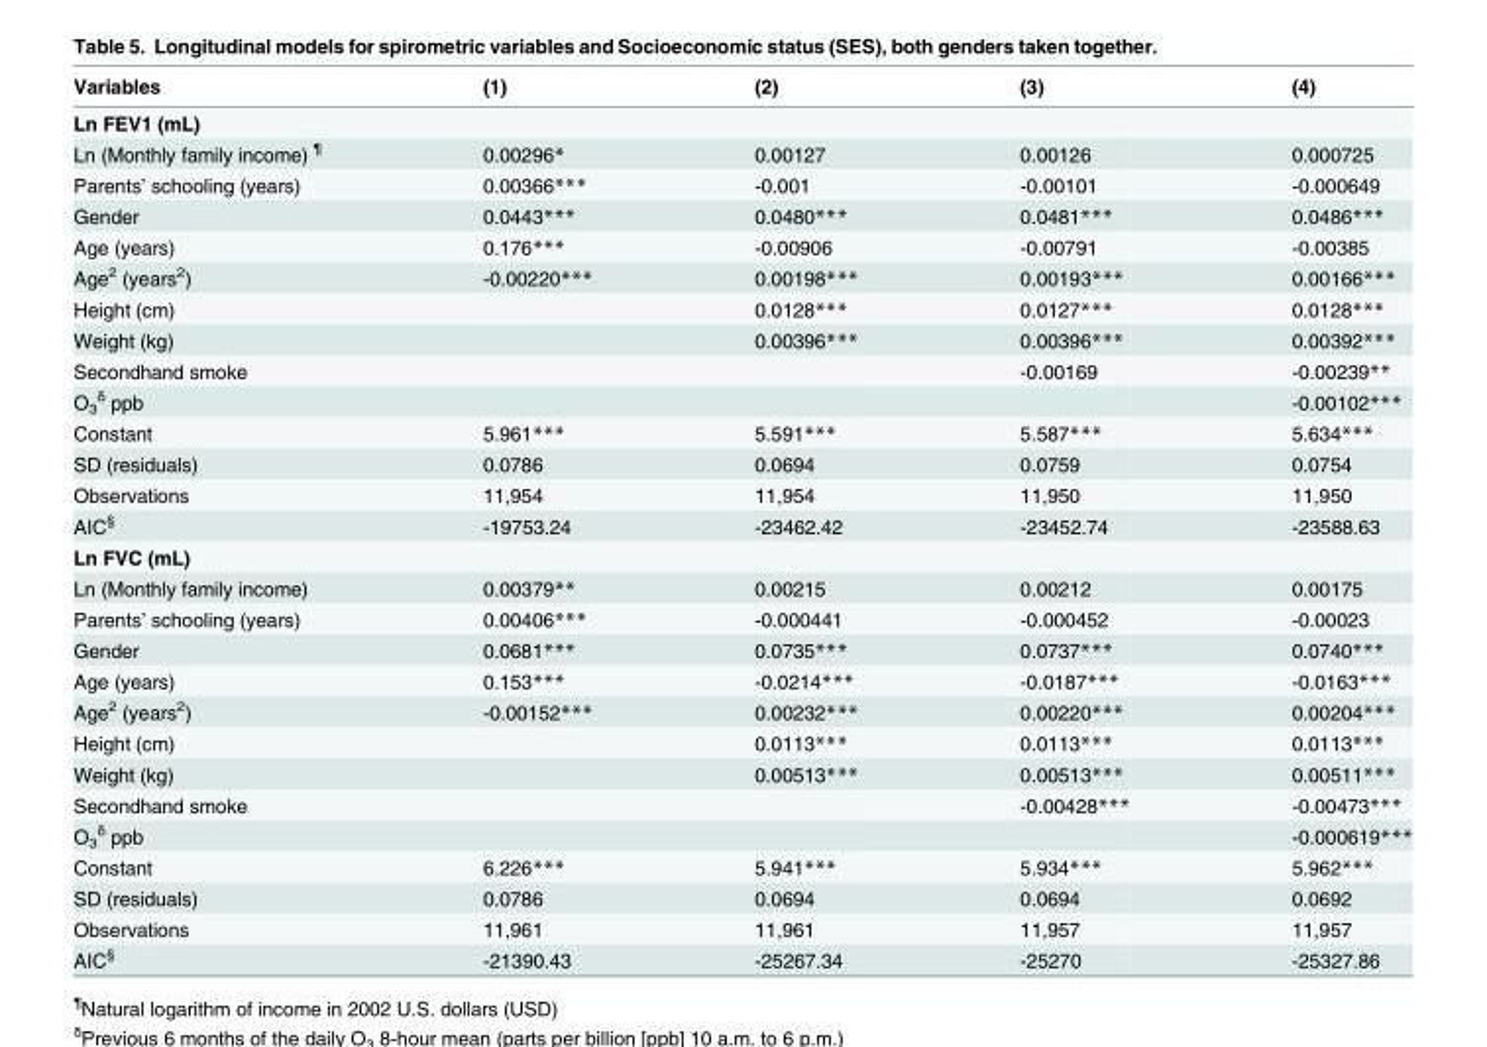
<table><thead><tr><td>Variables</td><td>(1)</td><td>(2)</td><td>(3)</td><td>(4)</td></tr></thead><tbody><tr><td colspan="5">Ln FEV1 (mL)</td></tr><tr><td>Ln (Monthly family income) <sup>¶</sup></td><td>0.00296*</td><td>0.00127</td><td>0.00126</td><td>0.000725</td></tr><tr><td>Parents’ schooling (years)</td><td>0.00366***</td><td>-0.001</td><td>-0.00101</td><td>-0.000649</td></tr><tr><td>Gender</td><td>0.0443***</td><td>0.0480***</td><td>0.0481***</td><td>0.0486***</td></tr><tr><td>Age (years)</td><td>0.176***</td><td>-0.00906</td><td>-0.00791</td><td>-0.00385</td></tr><tr><td>Age<sup>2</sup> (years<sup>2</sup>)</td><td>-0.00220***</td><td>0.00198***</td><td>0.00193***</td><td>0.00166***</td></tr><tr><td>Height (cm)</td><td></td><td>0.0128***</td><td>0.0127***</td><td>0.0128***</td></tr><tr><td>Weight (kg)</td><td></td><td>0.00396***</td><td>0.00396***</td><td>0.00392***</td></tr><tr><td>Secondhand smoke</td><td></td><td></td><td>-0.00169</td><td>-0.00239**</td></tr><tr><td>O<sub>3</sub> <sup>δ</sup> ppb</td><td></td><td></td><td></td><td>-0.00102***</td></tr><tr><td>Constant</td><td>5.961***</td><td>5.591***</td><td>5.587***</td><td>5.634***</td></tr><tr><td>SD (residuals)</td><td>0.0786</td><td>0.0694</td><td>0.0759</td><td>0.0754</td></tr><tr><td>Observations</td><td>11,954</td><td>11,954</td><td>11,950</td><td>11,950</td></tr><tr><td>AIC<sup>§</sup></td><td>-19753.24</td><td>-23462.42</td><td>-23452.74</td><td>-23588.63</td></tr><tr><td colspan="5">Ln FVC (mL)</td></tr><tr><td>Ln (Monthly family income)</td><td>0.00379**</td><td>0.00215</td><td>0.00212</td><td>0.00175</td></tr><tr><td>Parents’ schooling (years)</td><td>0.00406***</td><td>-0.000441</td><td>-0.000452</td><td>-0.00023</td></tr><tr><td>Gender</td><td>0.0681***</td><td>0.0735***</td><td>0.0737***</td><td>0.0740***</td></tr><tr><td>Age (years)</td><td>0.153***</td><td>-0.0214***</td><td>-0.0187***</td><td>-0.0163***</td></tr><tr><td>Age<sup>2</sup> (years<sup>2</sup>)</td><td>-0.00152***</td><td>0.00232***</td><td>0.00220***</td><td>0.00204***</td></tr><tr><td>Height (cm)</td><td></td><td>0.0113***</td><td>0.0113***</td><td>0.0113***</td></tr><tr><td>Weight (kg)</td><td></td><td>0.00513***</td><td>0.00513***</td><td>0.00511***</td></tr><tr><td>Secondhand smoke</td><td></td><td></td><td>-0.00428***</td><td>-0.00473***</td></tr><tr><td>O<sub>3</sub> <sup>δ</sup> ppb</td><td></td><td></td><td></td><td>-0.000619***</td></tr><tr><td>Constant</td><td>6.226***</td><td>5.941***</td><td>5.934***</td><td>5.962***</td></tr><tr><td>SD (residuals)</td><td>0.0786</td><td>0.0694</td><td>0.0694</td><td>0.0692</td></tr><tr><td>Observations</td><td>11,961</td><td>11,961</td><td>11,957</td><td>11,957</td></tr><tr><td>AIC<sup>§</sup></td><td>-21390.43</td><td>-25267.34</td><td>-25270</td><td>-25327.86</td></tr></tbody></table>